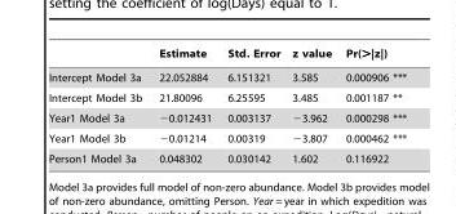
<table><thead><tr><td></td><td>Estimate</td><td>Std. Error</td><td>z value</td><td>Pr(&gt;|z|)</td></tr></thead><tbody><tr><td>Intercept Model 3a</td><td>22.052884</td><td>6.151321</td><td>3.585</td><td>0.000906 ***</td></tr><tr><td>Intercept Model 3b</td><td>21.80096</td><td>6.25595</td><td>3.485</td><td>0.001187 **</td></tr><tr><td>Year1 Model 3a</td><td>−0.012431</td><td>0.003137</td><td>−3.962</td><td>0.000298 ***</td></tr><tr><td>Year1 Model 3b</td><td>−0.01214</td><td>0.00319</td><td>−3.807</td><td>0.000462 ***</td></tr><tr><td>Person1 Model 3a</td><td>0.048302</td><td>0.030142</td><td>1.602</td><td>0.116922</td></tr></tbody></table>